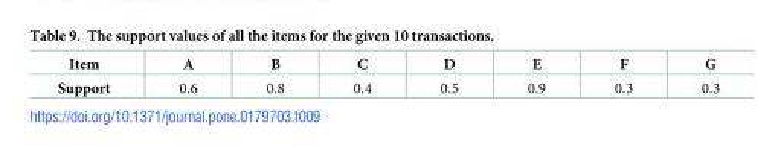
<table><thead><tr><td>Item</td><td>A</td><td>B</td><td>C</td><td>D</td><td>E</td><td>F</td><td>G</td></tr></thead><tbody><tr><td>Support</td><td>0.6</td><td>0.8</td><td>0.4</td><td>0.5</td><td>0.9</td><td>0.3</td><td>0.3</td></tr></tbody></table>